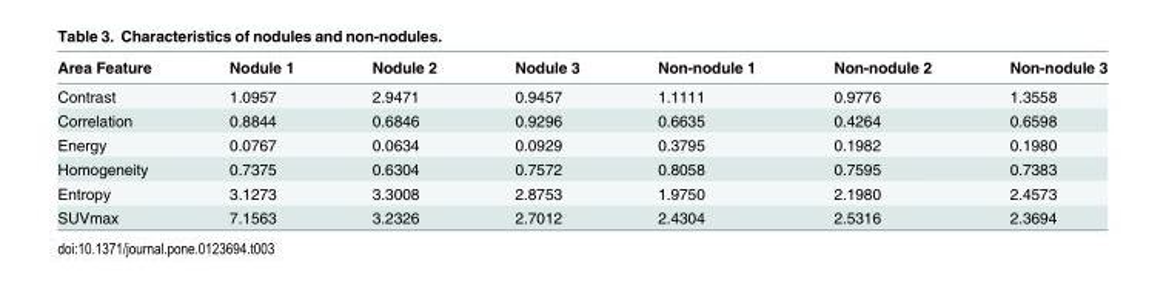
<table><thead><tr><td>Area Feature</td><td>Nodule 1</td><td>Nodule 2</td><td>Nodule 3</td><td>Non-nodule 1</td><td>Non-nodule 2</td><td>Non-nodule 3</td></tr></thead><tbody><tr><td>Contrast</td><td>1.0957</td><td>2.9471</td><td>0.9457</td><td>1.1111</td><td>0.9776</td><td>1.3558</td></tr><tr><td>Correlation</td><td>0.8844</td><td>0.6846</td><td>0.9296</td><td>0.6635</td><td>0.4264</td><td>0.6598</td></tr><tr><td>Energy</td><td>0.0767</td><td>0.0634</td><td>0.0929</td><td>0.3795</td><td>0.1982</td><td>0.1980</td></tr><tr><td>Homogeneity</td><td>0.7375</td><td>0.6304</td><td>0.7572</td><td>0.8058</td><td>0.7595</td><td>0.7383</td></tr><tr><td>Entropy</td><td>3.1273</td><td>3.3008</td><td>2.8753</td><td>1.9750</td><td>2.1980</td><td>2.4573</td></tr><tr><td>SUVmax</td><td>7.1563</td><td>3.2326</td><td>2.7012</td><td>2.4304</td><td>2.5316</td><td>2.3694</td></tr></tbody></table>